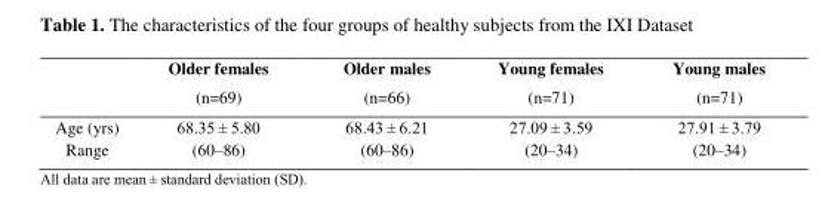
<table><thead><tr><td></td><td>Older females (n=69)</td><td>Older males (n=66)</td><td>Young females (n=71)</td><td>Young males (n=71)</td></tr></thead><tbody><tr><td>Age (yrs) Range</td><td>68.35 ± 5.80 (60–86)</td><td>68.43 ± 6.21 (60–86)</td><td>27.09 ± 3.59 (20–34)</td><td>27.91 ± 3.79 (20–34)</td></tr></tbody></table>